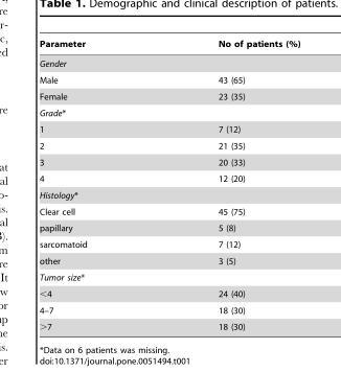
<table><thead><tr><td>Parameter</td><td>No of patients (%)</td></tr></thead><tbody><tr><td colspan="2">Gender</td></tr><tr><td>Male</td><td>43 (65)</td></tr><tr><td>Female</td><td>23 (35)</td></tr><tr><td colspan="2">Grade*</td></tr><tr><td>1</td><td>7 (12)</td></tr><tr><td>2</td><td>21 (35)</td></tr><tr><td>3</td><td>20 (33)</td></tr><tr><td>4</td><td>12 (20)</td></tr><tr><td colspan="2">Histology*</td></tr><tr><td>Clear cell</td><td>45 (75)</td></tr><tr><td>papillary</td><td>5 (8)</td></tr><tr><td>sarcomatoid</td><td>7 (12)</td></tr><tr><td>other</td><td>3 (5)</td></tr><tr><td colspan="2">Tumor size*</td></tr><tr><td>&lt;4</td><td>24 (40)</td></tr><tr><td>4–7</td><td>18 (30)</td></tr><tr><td>&gt;7</td><td>18 (30)</td></tr></tbody></table>